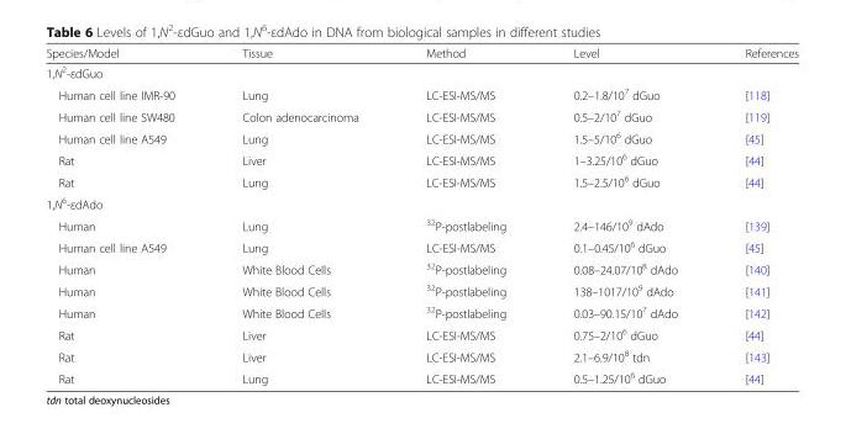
<table><thead><tr><td>Species/Model</td><td>Tissue</td><td>Method</td><td>Level</td><td>References</td></tr></thead><tbody><tr><td colspan="5">1,N<sup>2</sup>-εdGuo</td></tr><tr><td>Human cell line IMR-90</td><td>Lung</td><td>LC-ESI-MS/MS</td><td>0.2–1.8/10<sup>7</sup> dGuo</td><td>[118]</td></tr><tr><td>Human cell line SW480</td><td>Colon adenocarcinoma</td><td>LC-ESI-MS/MS</td><td>0.5–2/10<sup>7</sup> dGuo</td><td>[119]</td></tr><tr><td>Human cell line A549</td><td>Lung</td><td>LC-ESI-MS/MS</td><td>1.5–5/10<sup>6</sup> dGuo</td><td>[45]</td></tr><tr><td>Rat</td><td>Liver</td><td>LC-ESI-MS/MS</td><td>1–3.25/10<sup>6</sup> dGuo</td><td>[44]</td></tr><tr><td>Rat</td><td>Lung</td><td>LC-ESI-MS/MS</td><td>1.5–2.5/10<sup>6</sup> dGuo</td><td>[44]</td></tr><tr><td colspan="5">1,N<sup>6</sup>-εdAdo</td></tr><tr><td>Human</td><td>Lung</td><td><sup>32</sup>P-postlabeling</td><td>2.4–146/10<sup>9</sup> dAdo</td><td>[139]</td></tr><tr><td>Human cell line A549</td><td>Lung</td><td>LC-ESI-MS/MS</td><td>0.1–0.45/10<sup>6</sup> dGuo</td><td>[45]</td></tr><tr><td>Human</td><td>White Blood Cells</td><td><sup>32</sup>P-postlabeling</td><td>0.08–24.07/10<sup>8</sup> dAdo</td><td>[140]</td></tr><tr><td>Human</td><td>White Blood Cells</td><td><sup>32</sup>P-postlabeling</td><td>138–1017/10<sup>9</sup> dAdo</td><td>[141]</td></tr><tr><td>Human</td><td>White Blood Cells</td><td><sup>32</sup>P-postlabeling</td><td>0.03–90.15/10<sup>7</sup> dAdo</td><td>[142]</td></tr><tr><td>Rat</td><td>Liver</td><td>LC-ESI-MS/MS</td><td>0.75–2/10<sup>6</sup> dGuo</td><td>[44]</td></tr><tr><td>Rat</td><td>Liver</td><td>LC-ESI-MS/MS</td><td>2.1–6.9/10<sup>8</sup> tdn</td><td>[143]</td></tr><tr><td>Rat</td><td>Lung</td><td>LC-ESI-MS/MS</td><td>0.5–1.25/10<sup>6</sup> dGuo</td><td>[44]</td></tr></tbody></table>